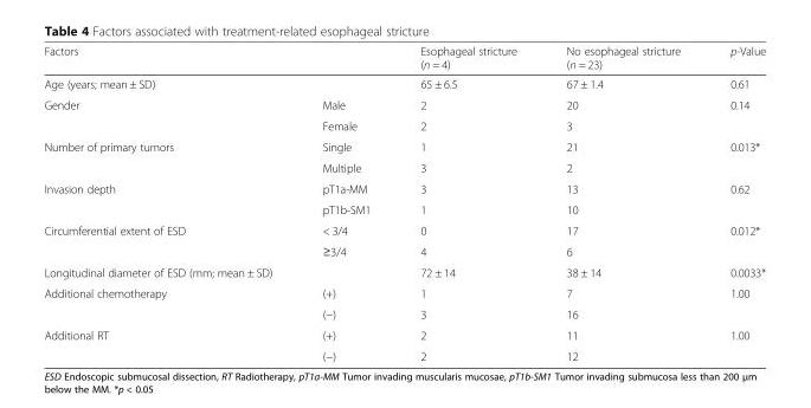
<table><thead><tr><td>Factors</td><td></td><td>Esophageal stricture (n = 4)</td><td>No esophageal stricture (n = 23)</td><td>p-Value</td></tr></thead><tbody><tr><td>Age (years; mean ± SD)</td><td></td><td>65 ± 6.5</td><td>67 ± 1.4</td><td>0.61</td></tr><tr><td rowspan="2">Gender</td><td>Male</td><td>2</td><td>20</td><td>0.14</td></tr><tr><td>Female</td><td>2</td><td>3</td><td></td></tr><tr><td rowspan="2">Number of primary tumors</td><td>Single</td><td>1</td><td>21</td><td>0.013*</td></tr><tr><td>Multiple</td><td>3</td><td>2</td><td></td></tr><tr><td rowspan="2">Invasion depth</td><td>pT1a-MM</td><td>3</td><td>13</td><td>0.62</td></tr><tr><td>pT1b-SM1</td><td>1</td><td>10</td><td></td></tr><tr><td rowspan="2">Circumferential extent of ESD</td><td>&lt; 3/4</td><td>0</td><td>17</td><td>0.012*</td></tr><tr><td>≥3/4</td><td>4</td><td>6</td><td></td></tr><tr><td>Longitudinal diameter of ESD (mm; mean ± SD)</td><td></td><td>72 ± 14</td><td>38 ± 14</td><td>0.0033*</td></tr><tr><td rowspan="2">Additional chemotherapy</td><td>(+)</td><td>1</td><td>7</td><td>1.00</td></tr><tr><td>(−)</td><td>3</td><td>16</td><td></td></tr><tr><td rowspan="2">Additional RT</td><td>(+)</td><td>2</td><td>11</td><td>1.00</td></tr><tr><td>(−)</td><td>2</td><td>12</td><td></td></tr></tbody></table>